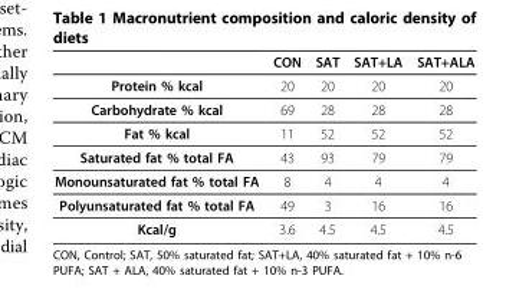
<table><thead><tr><td></td><td>CON</td><td>SAT</td><td>SAT+LA</td><td>SAT+ALA</td></tr></thead><tbody><tr><td>Protein % kcal</td><td>20</td><td>20</td><td>20</td><td>20</td></tr><tr><td>Carbohydrate % kcal</td><td>69</td><td>28</td><td>28</td><td>28</td></tr><tr><td>Fat % kcal</td><td>11</td><td>52</td><td>52</td><td>52</td></tr><tr><td>Saturated fat % total FA</td><td>43</td><td>93</td><td>79</td><td>79</td></tr><tr><td>Monounsaturated fat % total FA</td><td>8</td><td>4</td><td>4</td><td>4</td></tr><tr><td>Polyunsaturated fat % total FA</td><td>49</td><td>3</td><td>16</td><td>16</td></tr><tr><td>Kcal/g</td><td>3.6</td><td>4.5</td><td>4.5</td><td>4.5</td></tr></tbody></table>